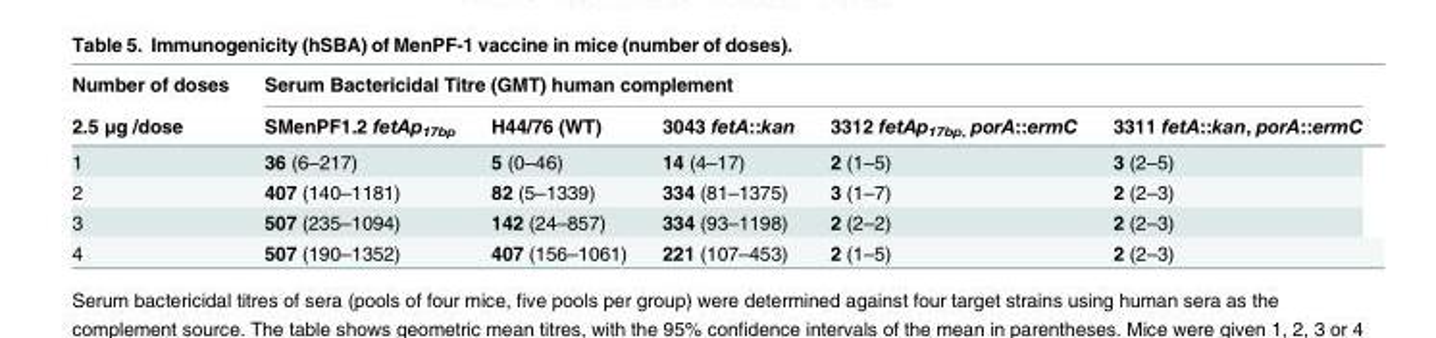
<table><thead><tr><td rowspan="2">Number of doses 2.5 μg /dose</td><td colspan="5">Serum Bactericidal Titre (GMT) human complement</td></tr><tr><td>SMenPF1.2 fetAp<sub>17bp</sub></td><td>H44/76 (WT)</td><td>3043 fetA::kan</td><td>3312 fetAp<sub>17bp,</sub> porA::ermC</td><td>3311 fetA::kan, porA::ermC</td></tr></thead><tbody><tr><td>1</td><td>36 (6–217)</td><td>5 (0–46)</td><td>14 (4–17)</td><td>2 (1–5)</td><td>3 (2–5)</td></tr><tr><td>2</td><td>407 (140–1181)</td><td>82 (5–1339)</td><td>334 (81–1375)</td><td>3 (1–7)</td><td>2 (2–3)</td></tr><tr><td>3</td><td>507 (235–1094)</td><td>142 (24–857)</td><td>334 (93–1198)</td><td>2 (2–2)</td><td>2 (2–3)</td></tr><tr><td>4</td><td>507 (190–1352)</td><td>407 (156–1061)</td><td>221 (107–453)</td><td>2 (1–5)</td><td>2 (2–3)</td></tr></tbody></table>